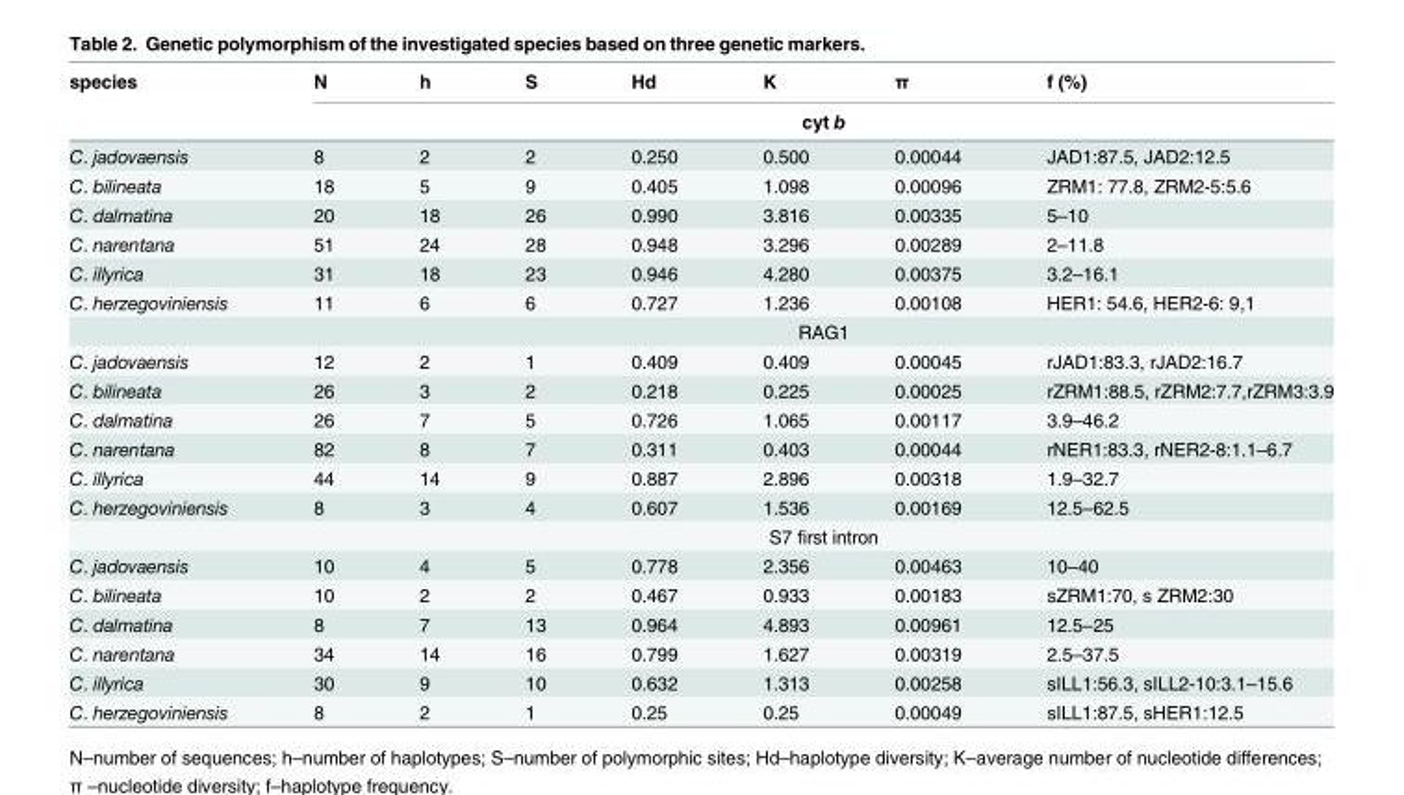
<table><thead><tr><td rowspan="2">species</td><td>N</td><td>h</td><td>S</td><td>Hd</td><td>K</td><td>π</td><td>f (%)</td></tr><tr><td colspan="7">cyt b</td></tr></thead><tbody><tr><td>C. jadovaensis</td><td>8</td><td>2</td><td>2</td><td>0.250</td><td>0.500</td><td>0.00044</td><td>JAD1:87.5, JAD2:12.5</td></tr><tr><td>C. bilineata</td><td>18</td><td>5</td><td>9</td><td>0.405</td><td>1.098</td><td>0.00096</td><td>ZRM1: 77.8, ZRM2-5:5.6</td></tr><tr><td>C. dalmatina</td><td>20</td><td>18</td><td>26</td><td>0.990</td><td>3.816</td><td>0.00335</td><td>5–10</td></tr><tr><td>C. narentana</td><td>51</td><td>24</td><td>28</td><td>0.948</td><td>3.296</td><td>0.00289</td><td>2–11.8</td></tr><tr><td>C. illyrica</td><td>31</td><td>18</td><td>23</td><td>0.946</td><td>4.280</td><td>0.00375</td><td>3.2–16.1</td></tr><tr><td rowspan="2">C. herzegoviniensis</td><td>11</td><td>6</td><td>6</td><td>0.727</td><td>1.236</td><td>0.00108</td><td>HER1: 54.6, HER2-6: 9,1</td></tr><tr><td colspan="7">RAG1</td></tr><tr><td>C. jadovaensis</td><td>12</td><td>2</td><td>1</td><td>0.409</td><td>0.409</td><td>0.00045</td><td>rJAD1:83.3, rJAD2:16.7</td></tr><tr><td>C. bilineata</td><td>26</td><td>3</td><td>2</td><td>0.218</td><td>0.225</td><td>0.00025</td><td>rZRM1:88.5, rZRM2:7.7,rZRM3:3.9</td></tr><tr><td>C. dalmatina</td><td>26</td><td>7</td><td>5</td><td>0.726</td><td>1.065</td><td>0.00117</td><td>3.9–46.2</td></tr><tr><td>C. narentana</td><td>82</td><td>8</td><td>7</td><td>0.311</td><td>0.403</td><td>0.00044</td><td>rNER1:83.3, rNER2-8:1.1–6.7</td></tr><tr><td>C. illyrica</td><td>44</td><td>14</td><td>9</td><td>0.887</td><td>2.896</td><td>0.00318</td><td>1.9–32.7</td></tr><tr><td rowspan="2">C. herzegoviniensis</td><td>8</td><td>3</td><td>4</td><td>0.607</td><td>1.536</td><td>0.00169</td><td>12.5–62.5</td></tr><tr><td colspan="7">S7 first intron</td></tr><tr><td>C. jadovaensis</td><td>10</td><td>4</td><td>5</td><td>0.778</td><td>2.356</td><td>0.00463</td><td>10–40</td></tr><tr><td>C. bilineata</td><td>10</td><td>2</td><td>2</td><td>0.467</td><td>0.933</td><td>0.00183</td><td>sZRM1:70, s ZRM2:30</td></tr><tr><td>C. dalmatina</td><td>8</td><td>7</td><td>13</td><td>0.964</td><td>4.893</td><td>0.00961</td><td>12.5–25</td></tr><tr><td>C. narentana</td><td>34</td><td>14</td><td>16</td><td>0.799</td><td>1.627</td><td>0.00319</td><td>2.5–37.5</td></tr><tr><td>C. illyrica</td><td>30</td><td>9</td><td>10</td><td>0.632</td><td>1.313</td><td>0.00258</td><td>sILL1:56.3, sILL2-10:3.1–15.6</td></tr><tr><td>C. herzegoviniensis</td><td>8</td><td>2</td><td>1</td><td>0.25</td><td>0.25</td><td>0.00049</td><td>sILL1:87.5, sHER1:12.5</td></tr></tbody></table>